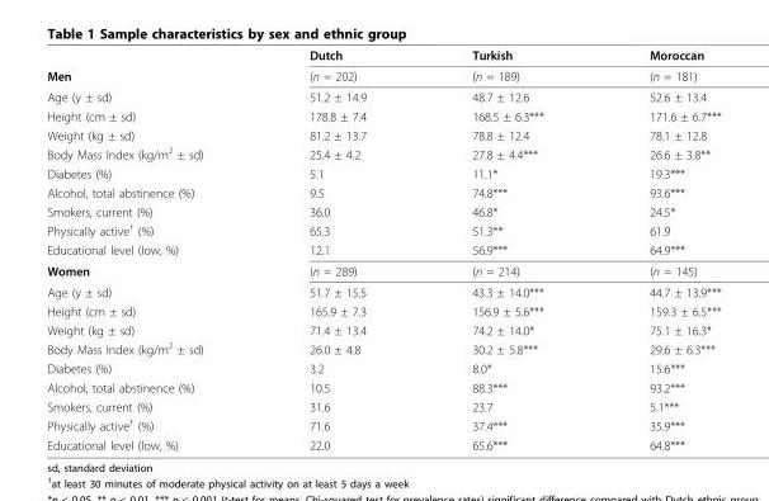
<table><thead><tr><td></td><td>Dutch</td><td>Turkish</td><td>Moroccan</td></tr></thead><tbody><tr><td>Men</td><td>(n = 202)</td><td>(n = 189)</td><td>(n = 181)</td></tr><tr><td>Age (y ± sd)</td><td>51.2 ± 14.9</td><td>48.7 ± 12.6</td><td>52.6 ± 13.4</td></tr><tr><td>Height (cm ± sd)</td><td>178.8 ± 7.4</td><td>168.5 ± 6.3***</td><td>171.6 ± 6.7***</td></tr><tr><td>Weight (kg ± sd)</td><td>81.2 ± 13.7</td><td>78.8 ± 12.4</td><td>78.1 ± 12.8</td></tr><tr><td>Body Mass Index (kg/m<sup>2</sup> ± sd)</td><td>25.4 ± 4.2</td><td>27.8 ± 4.4***</td><td>26.6 ± 3.8**</td></tr><tr><td>Diabetes (%)</td><td>5.1</td><td>11.1*</td><td>19.3***</td></tr><tr><td>Alcohol, total abstinence (%)</td><td>9.5</td><td>74.8***</td><td>93.6***</td></tr><tr><td>Smokers, current (%)</td><td>36.0</td><td>46.8*</td><td>24.5*</td></tr><tr><td>Physically active<sup>†</sup> (%)</td><td>65.3</td><td>51.3**</td><td>61.9</td></tr><tr><td>Educational level (low, %)</td><td>12.1</td><td>56.9***</td><td>64.9***</td></tr><tr><td>Women</td><td>(n = 289)</td><td>(n = 214)</td><td>(n = 145)</td></tr><tr><td>Age (y ± sd)</td><td>51.7 ± 15.5</td><td>43.3 ± 14.0***</td><td>44.7 ± 13.9***</td></tr><tr><td>Height (cm ± sd)</td><td>165.9 ± 7.3</td><td>156.9 ± 5.6***</td><td>159.3 ± 6.5***</td></tr><tr><td>Weight (kg ± sd)</td><td>71.4 ± 13.4</td><td>74.2 ± 14.0*</td><td>75.1 ± 16.3*</td></tr><tr><td>Body Mass Index (kg/m<sup>2</sup> ± sd)</td><td>26.0 ± 4.8</td><td>30.2 ± 5.8***</td><td>29.6 ± 6.3***</td></tr><tr><td>Diabetes (%)</td><td>3.2</td><td>8.0*</td><td>15.6***</td></tr><tr><td>Alcohol, total abstinence (%)</td><td>10.5</td><td>88.3***</td><td>93.2***</td></tr><tr><td>Smokers, current (%)</td><td>31.6</td><td>23.7</td><td>5.1***</td></tr><tr><td>Physically active<sup>†</sup> (%)</td><td>71.6</td><td>37.4***</td><td>35.9***</td></tr><tr><td>Educational level (low, %)</td><td>22.0</td><td>65.6***</td><td>64.8***</td></tr></tbody></table>